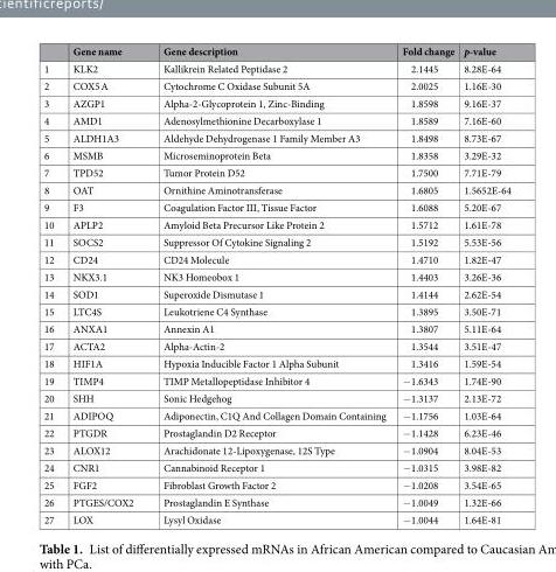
<table><thead><tr><td></td><td>Gene name</td><td>Gene description</td><td>Fold change</td><td>p-value</td></tr></thead><tbody><tr><td>1</td><td>KLK2</td><td>Kallikrein Related Peptidase 2</td><td>2.1445</td><td>8.28E-64</td></tr><tr><td>2</td><td>COX5 A</td><td>Cytochrome C Oxidase Subunit 5A</td><td>2.0025</td><td>1.16E-30</td></tr><tr><td>3</td><td>AZGP1</td><td>Alpha-2-Glycoprotein 1, Zinc-Binding</td><td>1.8598</td><td>9.16E-37</td></tr><tr><td>4</td><td>AMD1</td><td>Adenosylmethionine Decarboxylase 1</td><td>1.8589</td><td>7.16E-60</td></tr><tr><td>5</td><td>ALDH1A3</td><td>Aldehyde Dehydrogenase 1 Family Member A3</td><td>1.8498</td><td>8.73E-67</td></tr><tr><td>6</td><td>MSMB</td><td>Microseminoprotein Beta</td><td>1.8358</td><td>3.29E-32</td></tr><tr><td>7</td><td>TPD52</td><td>Tumor Protein D52</td><td>1.7500</td><td>7.71E-79</td></tr><tr><td>8</td><td>OAT</td><td>Ornithine Aminotransferase</td><td>1.6805</td><td>1.5652E-64</td></tr><tr><td>9</td><td>F3</td><td>Coagulation Factor III, Tissue Factor</td><td>1.6088</td><td>5.20E-67</td></tr><tr><td>10</td><td>APLP2</td><td>Amyloid Beta Precursor Like Protein 2</td><td>1.5712</td><td>1.61E-78</td></tr><tr><td>11</td><td>SOCS2</td><td>Suppressor Of Cytokine Signaling 2</td><td>1.5192</td><td>5.53E-56</td></tr><tr><td>12</td><td>CD24</td><td>CD24 Molecule</td><td>1.4710</td><td>1.82E-47</td></tr><tr><td>13</td><td>NKX3.1</td><td>NK3 Homeobox 1</td><td>1.4403</td><td>3.26E-36</td></tr><tr><td>14</td><td>SOD1</td><td>Superoxide Dismutase 1</td><td>1.4144</td><td>2.62E-54</td></tr><tr><td>15</td><td>LTC4S</td><td>Leukotriene C4 Synthase</td><td>1.3895</td><td>3.50E-71</td></tr><tr><td>16</td><td>ANXA1</td><td>Annexin A1</td><td>1.3807</td><td>5.11E-64</td></tr><tr><td>17</td><td>ACTA2</td><td>Alpha-Actin-2</td><td>1.3544</td><td>3.51E-47</td></tr><tr><td>18</td><td>HIF1A</td><td>Hypoxia Inducible Factor 1 Alpha Subunit</td><td>1.3416</td><td>1.59E-54</td></tr><tr><td>19</td><td>TIMP4</td><td>TIMP Metallopeptidase Inhibitor 4</td><td>−1.6343</td><td>1.74E-90</td></tr><tr><td>20</td><td>SHH</td><td>Sonic Hedgehog</td><td>−1.3137</td><td>2.13E-72</td></tr><tr><td>21</td><td>ADIPOQ</td><td>Adiponectin, C1Q And Collagen Domain Containing</td><td>−1.1756</td><td>1.03E-64</td></tr><tr><td>22</td><td>PTGDR</td><td>Prostaglandin D2 Receptor</td><td>−1.1428</td><td>6.23E-46</td></tr><tr><td>23</td><td>ALOX12</td><td>Arachidonate 12-Lipoxygenase, 12S Type</td><td>−1.0904</td><td>8.04E-53</td></tr><tr><td>24</td><td>CNR1</td><td>Cannabinoid Receptor 1</td><td>−1.0315</td><td>3.98E-82</td></tr><tr><td>25</td><td>FGF2</td><td>Fibroblast Growth Factor 2</td><td>−1.0208</td><td>3.54E-65</td></tr><tr><td>26</td><td>PTGES/COX2</td><td>Prostaglandin E Synthase</td><td>−1.0049</td><td>1.32E-66</td></tr><tr><td>27</td><td>LOX</td><td>Lysyl Oxidase</td><td>−1.0044</td><td>1.64E-81</td></tr></tbody></table>